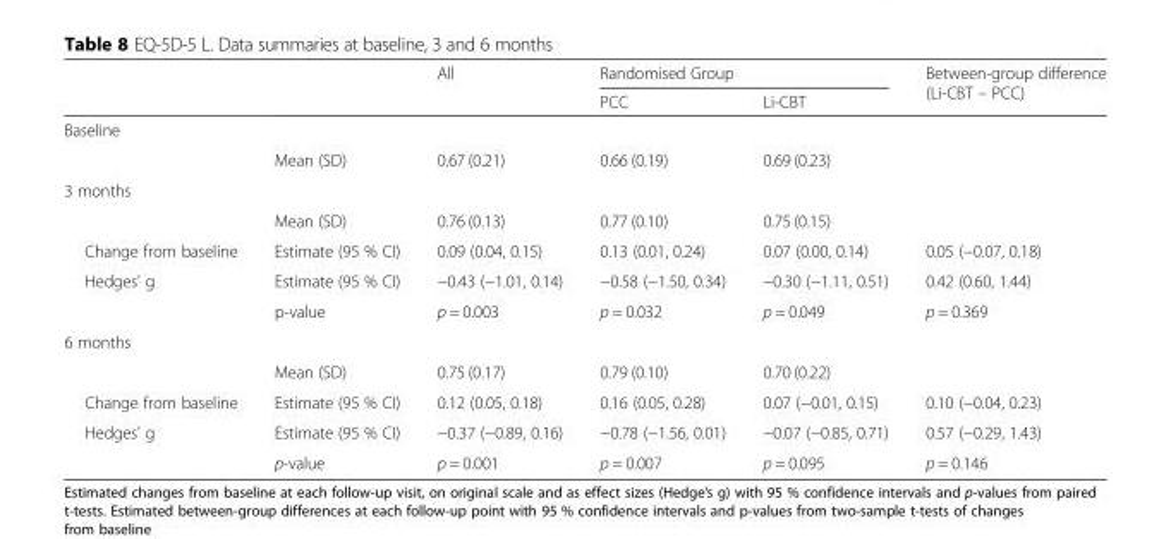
<table><thead><tr><td rowspan="2"></td><td rowspan="2"></td><td rowspan="2">All</td><td colspan="2">Randomised Group</td><td rowspan="2">Between-group difference (Li-CBT – PCC)</td></tr><tr><td>PCC</td><td>Li-CBT</td></tr></thead><tbody><tr><td colspan="6">Baseline</td></tr><tr><td></td><td>Mean (SD)</td><td>0.67 (0.21)</td><td>0.66 (0.19)</td><td>0.69 (0.23)</td><td></td></tr><tr><td colspan="6">3 months</td></tr><tr><td></td><td>Mean (SD)</td><td>0.76 (0.13)</td><td>0.77 (0.10)</td><td>0.75 (0.15)</td><td></td></tr><tr><td>Change from baseline</td><td>Estimate (95 % CI)</td><td>0.09 (0.04, 0.15)</td><td>0.13 (0.01, 0.24)</td><td>0.07 (0.00, 0.14)</td><td>0.05 (−0.07, 0.18)</td></tr><tr><td rowspan="2">Hedges&#x27; g</td><td>Estimate (95 % CI)</td><td>−0.43 (−1.01, 0.14)</td><td>−0.58 (−1.50, 0.34)</td><td>−0.30 (−1.11, 0.51)</td><td>0.42 (0.60, 1.44)</td></tr><tr><td>p-value</td><td>p = 0.003</td><td>p = 0.032</td><td>p = 0.049</td><td>p = 0.369</td></tr><tr><td colspan="6">6 months</td></tr><tr><td></td><td>Mean (SD)</td><td>0.75 (0.17)</td><td>0.79 (0.10)</td><td>0.70 (0.22)</td><td></td></tr><tr><td>Change from baseline</td><td>Estimate (95 % CI)</td><td>0.12 (0.05, 0.18)</td><td>0.16 (0.05, 0.28)</td><td>0.07 (−0.01, 0.15)</td><td>0.10 (−0.04, 0.23)</td></tr><tr><td rowspan="2">Hedges&#x27; g</td><td>Estimate (95 % CI)</td><td>−0.37 (−0.89, 0.16)</td><td>−0.78 (−1.56, 0.01)</td><td>−0.07 (−0.85, 0.71)</td><td>0.57 (−0.29, 1.43)</td></tr><tr><td>p-value</td><td>p = 0.001</td><td>p = 0.007</td><td>p = 0.095</td><td>p = 0.146</td></tr></tbody></table>